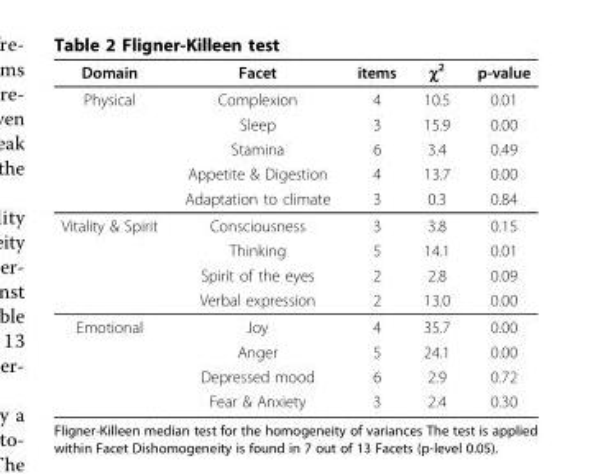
<table><thead><tr><td>Domain</td><td>Facet</td><td>items</td><td>χ<sup>2</sup></td><td>p-value</td></tr></thead><tbody><tr><td rowspan="5">Physical</td><td>Complexion</td><td>4</td><td>10.5</td><td>0.01</td></tr><tr><td>Sleep</td><td>3</td><td>15.9</td><td>0.00</td></tr><tr><td>Stamina</td><td>6</td><td>3.4</td><td>0.49</td></tr><tr><td>Appetite &amp; Digestion</td><td>4</td><td>13.7</td><td>0.00</td></tr><tr><td>Adaptation to climate</td><td>3</td><td>0.3</td><td>0.84</td></tr><tr><td rowspan="4">Vitality &amp; Spirit</td><td>Consciousness</td><td>3</td><td>3.8</td><td>0.15</td></tr><tr><td>Thinking</td><td>5</td><td>14.1</td><td>0.01</td></tr><tr><td>Spirit of the eyes</td><td>2</td><td>2.8</td><td>0.09</td></tr><tr><td>Verbal expression</td><td>2</td><td>13.0</td><td>0.00</td></tr><tr><td rowspan="4">Emotional</td><td>Joy</td><td>4</td><td>35.7</td><td>0.00</td></tr><tr><td>Anger</td><td>5</td><td>24.1</td><td>0.00</td></tr><tr><td>Depressed mood</td><td>6</td><td>2.9</td><td>0.72</td></tr><tr><td>Fear &amp; Anxiety</td><td>3</td><td>2.4</td><td>0.30</td></tr></tbody></table>